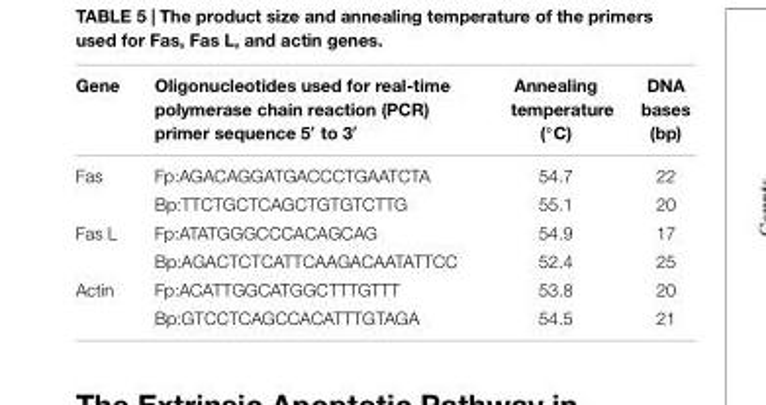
<table><thead><tr><td>Gene</td><td>Oligonucleotides used for real-time polymerase chain reaction (PCR) primer sequence 5′ to 3′</td><td>Annealing temperature (◦C)</td><td>DNA bases (bp)</td></tr></thead><tbody><tr><td rowspan="2">Fas</td><td>Fp:AGACAGGATGACCCTGAATCTA</td><td>54.7</td><td>22</td></tr><tr><td>Bp:TTCTGCTCAGCTGTGTCTTG</td><td>55.1</td><td>20</td></tr><tr><td rowspan="2">Fas L</td><td>Fp:ATATGGGCCCACAGCAG</td><td>54.9</td><td>17</td></tr><tr><td>Bp:AGACTCTCATTCAAGACAATATTCC</td><td>52.4</td><td>25</td></tr><tr><td rowspan="2">Actin</td><td>Fp:ACATTGGCATGGCTTTGTTT</td><td>53.8</td><td>20</td></tr><tr><td>Bp:GTCCTCAGCCACATTTGTAGA</td><td>54.5</td><td>21</td></tr></tbody></table>